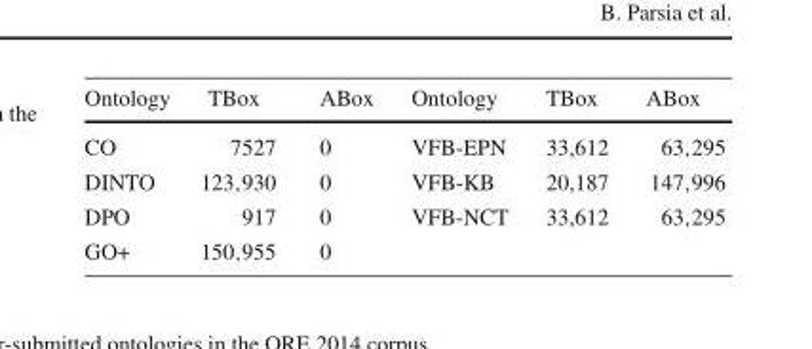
<table><thead><tr><td>Ontology</td><td>TBox</td><td>ABox</td><td>Ontology</td><td>TBox</td><td>ABox</td></tr></thead><tbody><tr><td>CO</td><td>7527</td><td>0</td><td>VFB-EPN</td><td>33,612</td><td>63,295</td></tr><tr><td>DINTO</td><td>123,930</td><td>0</td><td>VFB-KB</td><td>20,187</td><td>147,996</td></tr><tr><td>DPO</td><td>917</td><td>0</td><td>VFB-NCT</td><td>33,612</td><td>63,295</td></tr><tr><td>GO+</td><td>150,955</td><td>0</td><td></td><td></td><td></td></tr></tbody></table>